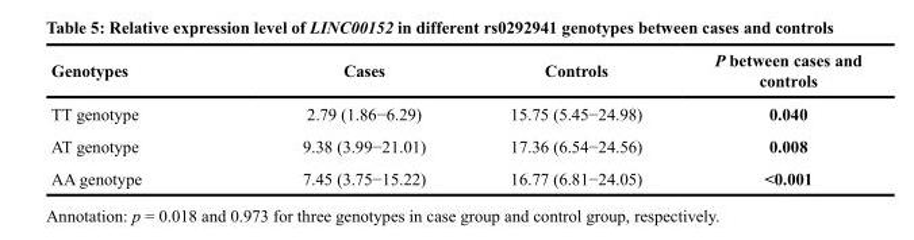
<table><thead><tr><td>Genotypes</td><td>Cases</td><td>Controls</td><td>P between cases and controls</td></tr></thead><tbody><tr><td>TT genotype</td><td>2.79 (1.86−6.29)</td><td>15.75 (5.45−24.98)</td><td>0.040</td></tr><tr><td>AT genotype</td><td>9.38 (3.99−21.01)</td><td>17.36 (6.54−24.56)</td><td>0.008</td></tr><tr><td>AA genotype</td><td>7.45 (3.75−15.22)</td><td>16.77 (6.81−24.05)</td><td>&lt;0.001</td></tr></tbody></table>